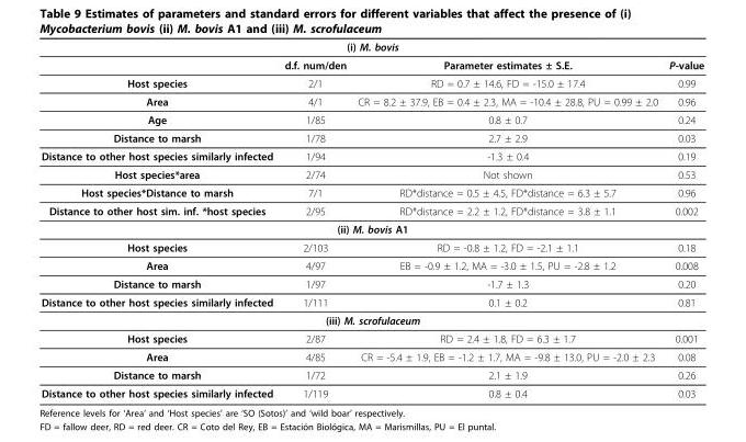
<table><thead><tr><td colspan="4">(i) M. bovis</td></tr><tr><td></td><td>d.f. num/den</td><td>Parameter estimates ± S.E.</td><td>P-value</td></tr></thead><tbody><tr><td>Host species</td><td>2/1</td><td>RD = 0.7 ± 14.6, FD = -15.0 ± 17.4</td><td>0.99</td></tr><tr><td>Area</td><td>4/1</td><td>CR = 8.2 ± 37.9, EB = 0.4 ± 2.3, MA = -10.4 ± 28.8, PU = 0.99 ± 2.0</td><td>0.96</td></tr><tr><td>Age</td><td>1/85</td><td>0.8 ± 0.7</td><td>0.24</td></tr><tr><td>Distance to marsh</td><td>1/78</td><td>2.7 ± 2.9</td><td>0.03</td></tr><tr><td>Distance to other host species similarly infected</td><td>1/94</td><td>-1.3 ± 0.4</td><td>0.19</td></tr><tr><td>Host species*area</td><td>2/74</td><td>Not shown</td><td>0.53</td></tr><tr><td>Host species*Distance to marsh</td><td>7/1</td><td>RD*distance = 0.5 ± 4.5, FD*distance = 6.3 ± 5.7</td><td>0.96</td></tr><tr><td>Distance to other host sim. inf. *host species</td><td>2/95</td><td>RD*distance = 2.2 ± 1.2, FD*distance = 3.8 ± 1.1</td><td>0.002</td></tr><tr><td colspan="4">(ii) M. bovis A1</td></tr><tr><td>Host species</td><td>2/103</td><td>RD = -0.8 ± 1.2, FD = -2.1 ± 1.1</td><td>0.18</td></tr><tr><td>Area</td><td>4/97</td><td>EB = -0.9 ± 1.2, MA = -3.0 ± 1.5, PU = -2.8 ± 1.2</td><td>0.008</td></tr><tr><td>Distance to marsh</td><td>1/97</td><td>-1.7 ± 1.3</td><td>0.20</td></tr><tr><td>Distance to other host species similarly infected</td><td>1/111</td><td>0.1 ± 0.2</td><td>0.81</td></tr><tr><td colspan="4">(iii) M. scrofulaceum</td></tr><tr><td>Host species</td><td>2/87</td><td>RD = 2.4 ± 1.8, FD = 6.3 ± 1.7</td><td>0.001</td></tr><tr><td>Area</td><td>4/85</td><td>CR = -5.4 ± 1.9, EB = -1.2 ± 1.7, MA = -9.8 ± 13.0, PU = -2.0 ± 2.3</td><td>0.08</td></tr><tr><td>Distance to marsh</td><td>1/72</td><td>2.1 ± 1.9</td><td>0.26</td></tr><tr><td>Distance to other host species similarly infected</td><td>1/119</td><td>0.8 ± 0.4</td><td>0.03</td></tr></tbody></table>